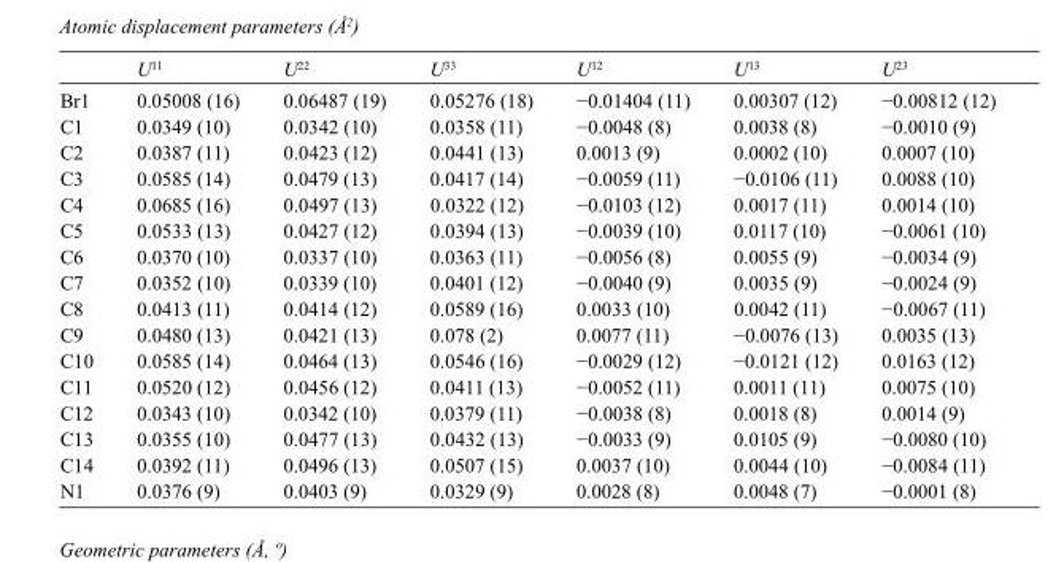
<table><thead><tr><td></td><td>U<sup>11</sup></td><td>U<sup>22</sup></td><td>U<sup>33</sup></td><td>U<sup>12</sup></td><td>U<sup>13</sup></td><td>U<sup>23</sup></td></tr></thead><tbody><tr><td>Br1</td><td>0.05008 (16)</td><td>0.06487 (19)</td><td>0.05276 (18)</td><td>−0.01404 (11)</td><td>0.00307 (12)</td><td>−0.00812 (12)</td></tr><tr><td>C1</td><td>0.0349 (10)</td><td>0.0342 (10)</td><td>0.0358 (11)</td><td>−0.0048 (8)</td><td>0.0038 (8)</td><td>−0.0010 (9)</td></tr><tr><td>C2</td><td>0.0387 (11)</td><td>0.0423 (12)</td><td>0.0441 (13)</td><td>0.0013 (9)</td><td>0.0002 (10)</td><td>0.0007 (10)</td></tr><tr><td>C3</td><td>0.0585 (14)</td><td>0.0479 (13)</td><td>0.0417 (14)</td><td>−0.0059 (11)</td><td>−0.0106 (11)</td><td>0.0088 (10)</td></tr><tr><td>C4</td><td>0.0685 (16)</td><td>0.0497 (13)</td><td>0.0322 (12)</td><td>−0.0103 (12)</td><td>0.0017 (11)</td><td>0.0014 (10)</td></tr><tr><td>C5</td><td>0.0533 (13)</td><td>0.0427 (12)</td><td>0.0394 (13)</td><td>−0.0039 (10)</td><td>0.0117 (10)</td><td>−0.0061 (10)</td></tr><tr><td>C6</td><td>0.0370 (10)</td><td>0.0337 (10)</td><td>0.0363 (11)</td><td>−0.0056 (8)</td><td>0.0055 (9)</td><td>−0.0034 (9)</td></tr><tr><td>C7</td><td>0.0352 (10)</td><td>0.0339 (10)</td><td>0.0401 (12)</td><td>−0.0040 (9)</td><td>0.0035 (9)</td><td>−0.0024 (9)</td></tr><tr><td>C8</td><td>0.0413 (11)</td><td>0.0414 (12)</td><td>0.0589 (16)</td><td>0.0033 (10)</td><td>0.0042 (11)</td><td>−0.0067 (11)</td></tr><tr><td>C9</td><td>0.0480 (13)</td><td>0.0421 (13)</td><td>0.078 (2)</td><td>0.0077 (11)</td><td>−0.0076 (13)</td><td>0.0035 (13)</td></tr><tr><td>C10</td><td>0.0585 (14)</td><td>0.0464 (13)</td><td>0.0546 (16)</td><td>−0.0029 (12)</td><td>−0.0121 (12)</td><td>0.0163 (12)</td></tr><tr><td>C11</td><td>0.0520 (12)</td><td>0.0456 (12)</td><td>0.0411 (13)</td><td>−0.0052 (11)</td><td>0.0011 (11)</td><td>0.0075 (10)</td></tr><tr><td>C12</td><td>0.0343 (10)</td><td>0.0342 (10)</td><td>0.0379 (11)</td><td>−0.0038 (8)</td><td>0.0018 (8)</td><td>0.0014 (9)</td></tr><tr><td>C13</td><td>0.0355 (10)</td><td>0.0477 (13)</td><td>0.0432 (13)</td><td>−0.0033 (9)</td><td>0.0105 (9)</td><td>−0.0080 (10)</td></tr><tr><td>C14</td><td>0.0392 (11)</td><td>0.0496 (13)</td><td>0.0507 (15)</td><td>0.0037 (10)</td><td>0.0044 (10)</td><td>−0.0084 (11)</td></tr><tr><td>N1</td><td>0.0376 (9)</td><td>0.0403 (9)</td><td>0.0329 (9)</td><td>0.0028 (8)</td><td>0.0048 (7)</td><td>−0.0001 (8)</td></tr></tbody></table>